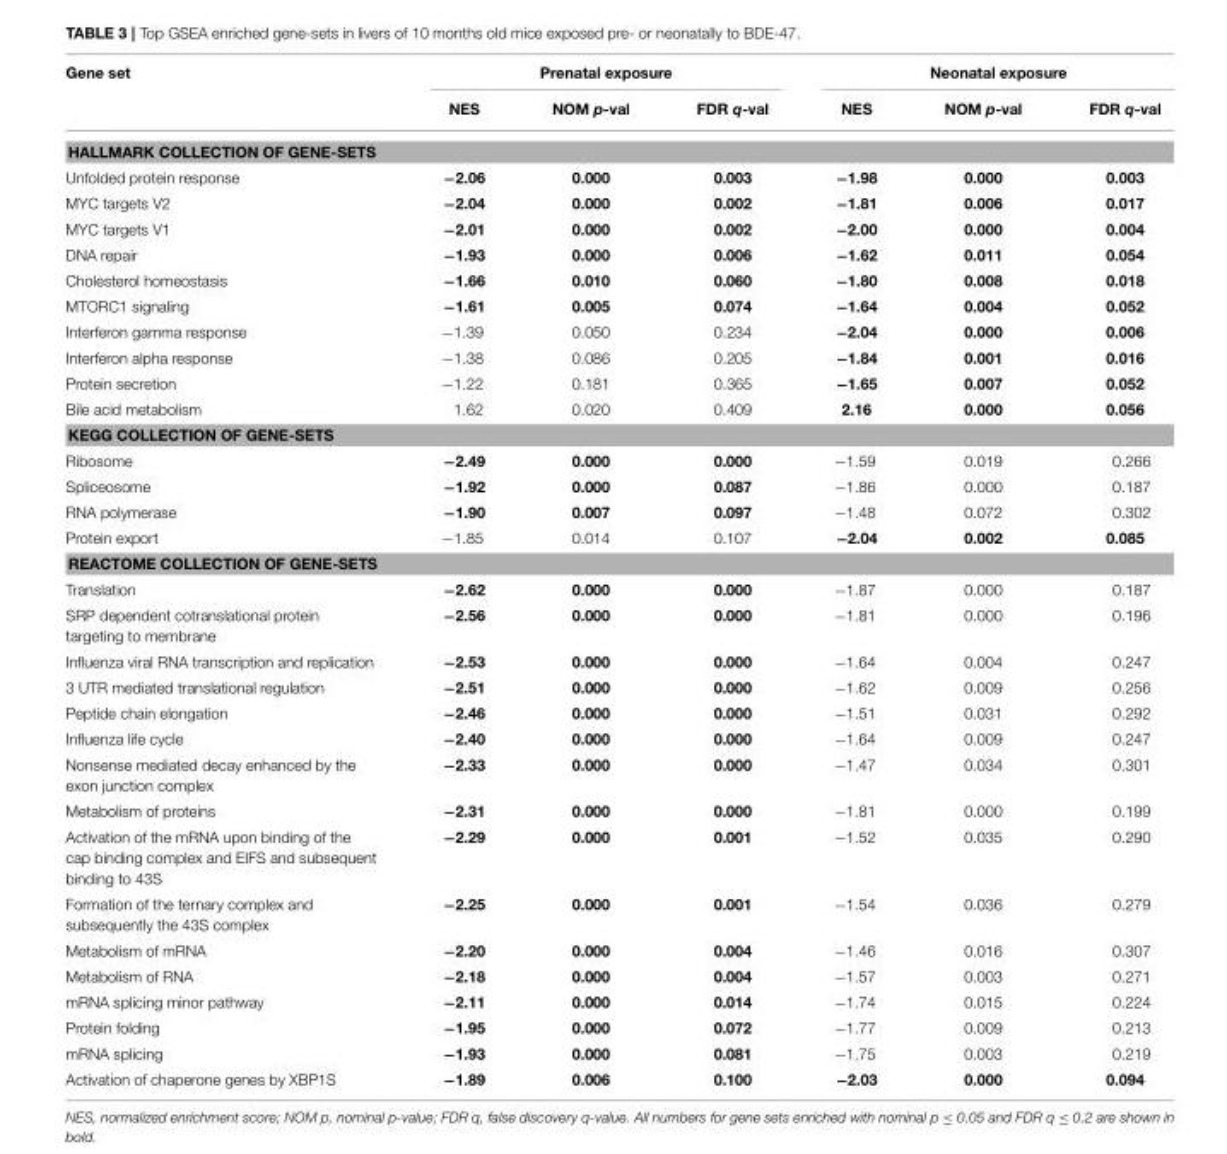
<table><thead><tr><td rowspan="2">Gene set</td><td colspan="3">Prenatal exposure</td><td colspan="3">Neonatal exposure</td></tr><tr><td>NES</td><td>NOM p-val</td><td>FDR q-val</td><td>NES</td><td>NOM p-val</td><td>FDR q-val</td></tr></thead><tbody><tr><td colspan="7">HALLMARK COLLECTION OF GENE-SETS</td></tr><tr><td>Unfolded protein response</td><td>−2.06</td><td>0.000</td><td>0.003</td><td>−1.98</td><td>0.000</td><td>0.003</td></tr><tr><td>MYC targets V2</td><td>−2.04</td><td>0.000</td><td>0.002</td><td>−1.81</td><td>0.006</td><td>0.017</td></tr><tr><td>MYC targets V1</td><td>−2.01</td><td>0.000</td><td>0.002</td><td>−2.00</td><td>0.000</td><td>0.004</td></tr><tr><td>DNA repair</td><td>−1.93</td><td>0.000</td><td>0.006</td><td>−1.62</td><td>0.011</td><td>0.054</td></tr><tr><td>Cholesterol homeostasis</td><td>−1.66</td><td>0.010</td><td>0.060</td><td>−1.80</td><td>0.008</td><td>0.018</td></tr><tr><td>MTORC1 signaling</td><td>−1.61</td><td>0.005</td><td>0.074</td><td>−1.64</td><td>0.004</td><td>0.052</td></tr><tr><td>Interferon gamma response</td><td>−1.39</td><td>0.050</td><td>0.234</td><td>−2.04</td><td>0.000</td><td>0.006</td></tr><tr><td>Interferon alpha response</td><td>−1.38</td><td>0.086</td><td>0.205</td><td>−1.84</td><td>0.001</td><td>0.016</td></tr><tr><td>Protein secretion</td><td>−1.22</td><td>0.181</td><td>0.365</td><td>−1.65</td><td>0.007</td><td>0.052</td></tr><tr><td>Bile acid metabolism</td><td>1.62</td><td>0.020</td><td>0.409</td><td>2.16</td><td>0.000</td><td>0.056</td></tr><tr><td colspan="7">KEGG COLLECTION OF GENE-SETS</td></tr><tr><td>Ribosome</td><td>−2.49</td><td>0.000</td><td>0.000</td><td>−1.59</td><td>0.019</td><td>0.266</td></tr><tr><td>Spliceosome</td><td>−1.92</td><td>0.000</td><td>0.087</td><td>−1.86</td><td>0.000</td><td>0.187</td></tr><tr><td>RNA polymerase</td><td>−1.90</td><td>0.007</td><td>0.097</td><td>−1.48</td><td>0.072</td><td>0.302</td></tr><tr><td>Protein export</td><td>−1.85</td><td>0.014</td><td>0.107</td><td>−2.04</td><td>0.002</td><td>0.085</td></tr><tr><td colspan="7">REACTOME COLLECTION OF GENE-SETS</td></tr><tr><td>Translation</td><td>−2.62</td><td>0.000</td><td>0.000</td><td>−1.87</td><td>0.000</td><td>0.187</td></tr><tr><td>SRP dependent cotranslational protein targeting to membrane</td><td>−2.56</td><td>0.000</td><td>0.000</td><td>−1.81</td><td>0.000</td><td>0.196</td></tr><tr><td>Influenza viral RNA transcription and replication</td><td>−2.53</td><td>0.000</td><td>0.000</td><td>−1.64</td><td>0.004</td><td>0.247</td></tr><tr><td>3 UTR mediated translational regulation</td><td>−2.51</td><td>0.000</td><td>0.000</td><td>−1.62</td><td>0.009</td><td>0.256</td></tr><tr><td>Peptide chain elongation</td><td>−2.46</td><td>0.000</td><td>0.000</td><td>−1.51</td><td>0.031</td><td>0.292</td></tr><tr><td>Influenza life cycle</td><td>−2.40</td><td>0.000</td><td>0.000</td><td>−1.64</td><td>0.009</td><td>0.247</td></tr><tr><td>Nonsense mediated decay enhanced by the exon junction complex</td><td>−2.33</td><td>0.000</td><td>0.000</td><td>−1.47</td><td>0.034</td><td>0.301</td></tr><tr><td>Metabolism of proteins</td><td>−2.31</td><td>0.000</td><td>0.000</td><td>−1.81</td><td>0.000</td><td>0.199</td></tr><tr><td>Activation of the mRNA upon binding of the cap binding complex and EIFS and subsequent binding to 43S</td><td>−2.29</td><td>0.000</td><td>0.001</td><td>−1.52</td><td>0.035</td><td>0.290</td></tr><tr><td>Formation of the ternary complex and subsequently the 43S complex</td><td>−2.25</td><td>0.000</td><td>0.001</td><td>−1.54</td><td>0.036</td><td>0.279</td></tr><tr><td>Metabolism of mRNA</td><td>−2.20</td><td>0.000</td><td>0.004</td><td>−1.46</td><td>0.016</td><td>0.307</td></tr><tr><td>Metabolism of RNA</td><td>−2.18</td><td>0.000</td><td>0.004</td><td>−1.57</td><td>0.003</td><td>0.271</td></tr><tr><td>mRNA splicing minor pathway</td><td>−2.11</td><td>0.000</td><td>0.014</td><td>−1.74</td><td>0.015</td><td>0.224</td></tr><tr><td>Protein folding</td><td>−1.95</td><td>0.000</td><td>0.072</td><td>−1.77</td><td>0.009</td><td>0.213</td></tr><tr><td>mRNA splicing</td><td>−1.93</td><td>0.000</td><td>0.081</td><td>−1.75</td><td>0.003</td><td>0.219</td></tr><tr><td>Activation of chaperone genes by XBP1S</td><td>−1.89</td><td>0.006</td><td>0.100</td><td>−2.03</td><td>0.000</td><td>0.094</td></tr></tbody></table>